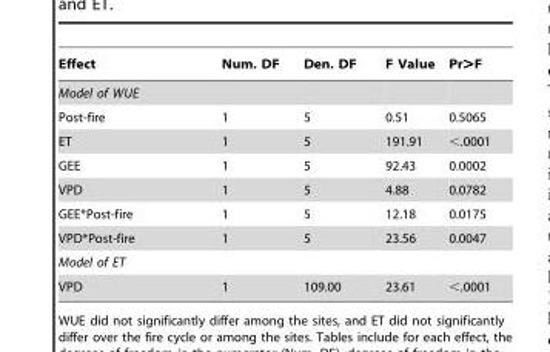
<table><thead><tr><td>Effect</td><td>Num. DF</td><td>Den. DF</td><td>F Value</td><td>Pr&gt;F</td></tr></thead><tbody><tr><td colspan="5">Model of WUE</td></tr><tr><td>Post-fire</td><td>1</td><td>5</td><td>0.51</td><td>0.5065</td></tr><tr><td>ET</td><td>1</td><td>5</td><td>191.91</td><td>&lt;.0001</td></tr><tr><td>GEE</td><td>1</td><td>5</td><td>92.43</td><td>0.0002</td></tr><tr><td>VPD</td><td>1</td><td>5</td><td>4.88</td><td>0.0782</td></tr><tr><td>GEE*Post-fire</td><td>1</td><td>5</td><td>12.18</td><td>0.0175</td></tr><tr><td>VPD*Post-fire</td><td>1</td><td>5</td><td>23.56</td><td>0.0047</td></tr><tr><td colspan="5">Model of ET</td></tr><tr><td>VPD</td><td>1</td><td>109.00</td><td>23.61</td><td>&lt;.0001</td></tr></tbody></table>